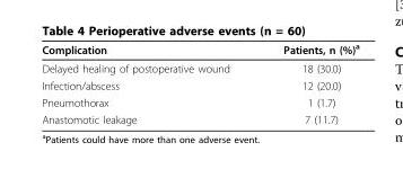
<table><thead><tr><td>Complication</td><td>Patients, n (%)<sup>a</sup></td></tr></thead><tbody><tr><td>Delayed healing of postoperative wound</td><td>18 (30.0)</td></tr><tr><td>Infection/abscess</td><td>12 (20.0)</td></tr><tr><td>Pneumothorax</td><td>1 (1.7)</td></tr><tr><td>Anastomotic leakage</td><td>7 (11.7)</td></tr></tbody></table>